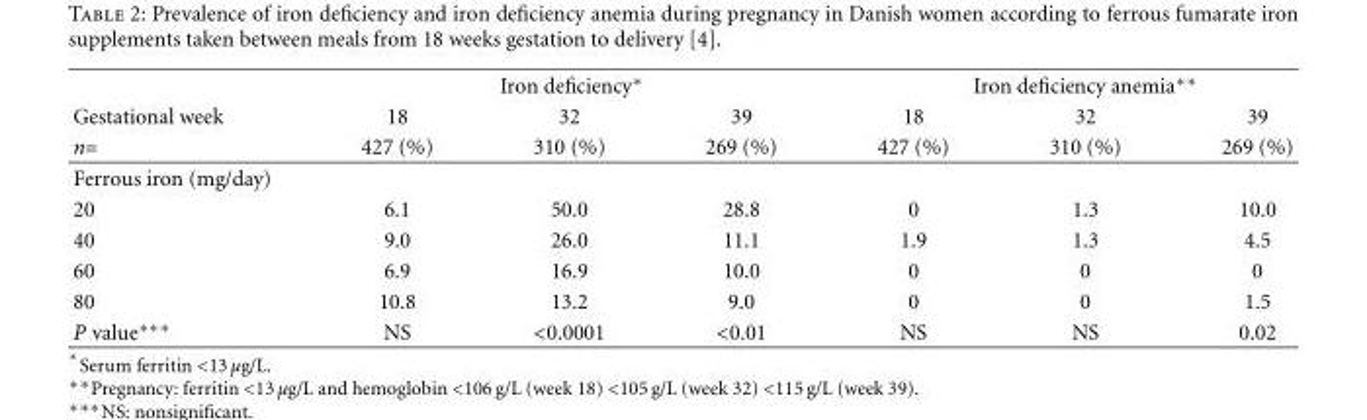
<table><thead><tr><td rowspan="3">Gestational week n=</td><td colspan="3">Iron deficiency∗</td><td colspan="3">Iron deficiency anemia∗∗</td></tr><tr><td rowspan="2">18 427 (%)</td><td rowspan="2">32 310 (%)</td><td rowspan="2">39 269 (%)</td><td rowspan="2">18 427 (%)</td><td rowspan="2">32 310 (%)</td><td rowspan="2">39 269 (%)</td></tr><tr></tr></thead><tbody><tr><td colspan="7">Ferrous iron (mg/day)</td></tr><tr><td>20</td><td>6.1</td><td>50.0</td><td>28.8</td><td>0</td><td>1.3</td><td>10.0</td></tr><tr><td>40</td><td>9.0</td><td>26.0</td><td>11.1</td><td>1.9</td><td>1.3</td><td>4.5</td></tr><tr><td>60</td><td>6.9</td><td>16.9</td><td>10.0</td><td>0</td><td>0</td><td>0</td></tr><tr><td>80</td><td>10.8</td><td>13.2</td><td>9.0</td><td>0</td><td>0</td><td>1.5</td></tr><tr><td>P value∗∗∗</td><td>NS</td><td>&lt;0.0001</td><td>&lt;0.01</td><td>NS</td><td>NS</td><td>0.02</td></tr></tbody></table>